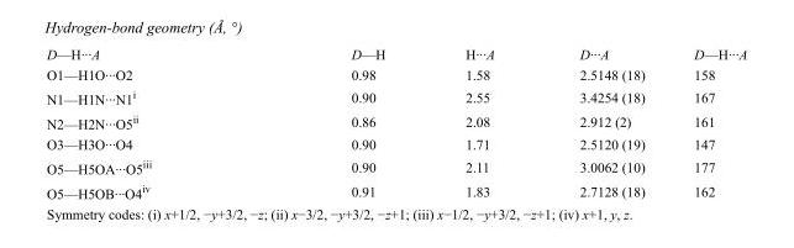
<table><tbody><tr><td>D—H···A</td><td>D—H</td><td>H···A</td><td>D···A</td><td>D—H···A</td></tr><tr><td>O1—H1O···O2</td><td>0.98</td><td>1.58</td><td>2.5148 (18)</td><td>158</td></tr><tr><td>N1—H1N···N1<sup>i</sup></td><td>0.90</td><td>2.55</td><td>3.4254 (18)</td><td>167</td></tr><tr><td>N2—H2N···O5<sup>ii</sup></td><td>0.86</td><td>2.08</td><td>2.912 (2)</td><td>161</td></tr><tr><td>O3—H3O···O4</td><td>0.90</td><td>1.71</td><td>2.5120 (19)</td><td>147</td></tr><tr><td>O5—H5OA···O5<sup>iii</sup></td><td>0.90</td><td>2.11</td><td>3.0062 (10)</td><td>177</td></tr><tr><td>O5—H5OB···O4<sup>iv</sup></td><td>0.91</td><td>1.83</td><td>2.7128 (18)</td><td>162</td></tr></tbody></table>